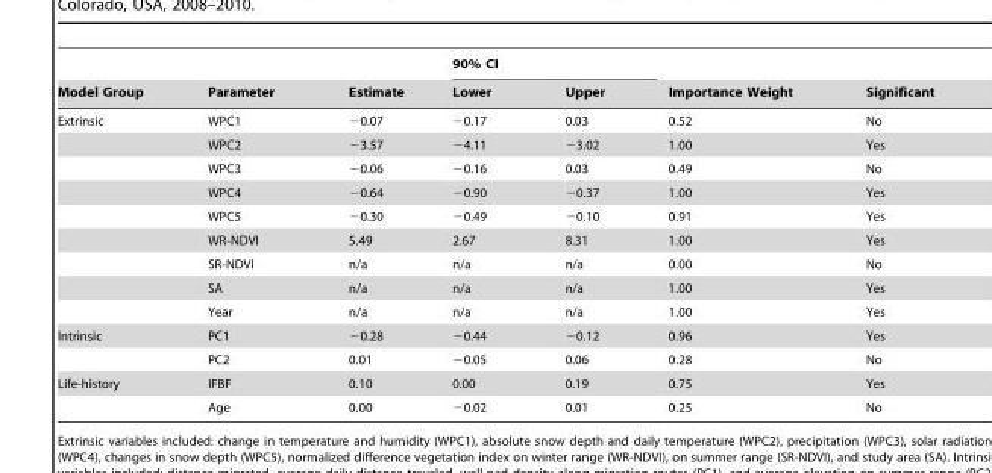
<table><thead><tr><td rowspan="2">Model Group</td><td rowspan="2">Parameter</td><td rowspan="2">Estimate</td><td colspan="2">90% CI</td><td rowspan="2">Importance Weight</td><td rowspan="2">Significant</td></tr><tr><td>Lower</td><td>Upper</td></tr></thead><tbody><tr><td rowspan="9">Extrinsic</td><td>WPC1</td><td>−0.07</td><td>−0.17</td><td>0.03</td><td>0.52</td><td>No</td></tr><tr><td>WPC2</td><td>−3.57</td><td>−4.11</td><td>−3.02</td><td>1.00</td><td>Yes</td></tr><tr><td>WPC3</td><td>−0.06</td><td>−0.16</td><td>0.03</td><td>0.49</td><td>No</td></tr><tr><td>WPC4</td><td>−0.64</td><td>−0.90</td><td>−0.37</td><td>1.00</td><td>Yes</td></tr><tr><td>WPC5</td><td>−0.30</td><td>−0.49</td><td>−0.10</td><td>0.91</td><td>Yes</td></tr><tr><td>WR-NDVI</td><td>5.49</td><td>2.67</td><td>8.31</td><td>1.00</td><td>Yes</td></tr><tr><td>SR-NDVI</td><td>n/a</td><td>n/a</td><td>n/a</td><td>0.00</td><td>No</td></tr><tr><td>SA</td><td>n/a</td><td>n/a</td><td>n/a</td><td>1.00</td><td>Yes</td></tr><tr><td>Year</td><td>n/a</td><td>n/a</td><td>n/a</td><td>1.00</td><td>Yes</td></tr><tr><td rowspan="2">Intrinsic</td><td>PC1</td><td>−0.28</td><td>−0.44</td><td>−0.12</td><td>0.96</td><td>Yes</td></tr><tr><td>PC2</td><td>0.01</td><td>−0.05</td><td>0.06</td><td>0.28</td><td>No</td></tr><tr><td rowspan="2">Life-history</td><td>IFBF</td><td>0.10</td><td>0.00</td><td>0.19</td><td>0.75</td><td>Yes</td></tr><tr><td>Age</td><td>0.00</td><td>−0.02</td><td>0.01</td><td>0.25</td><td>No</td></tr></tbody></table>